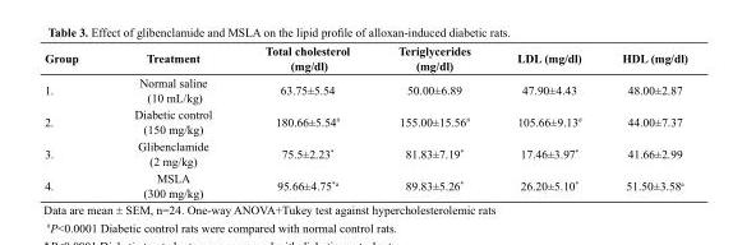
<table><thead><tr><td>Group</td><td>Treatment</td><td>Total cholesterol (mg/dl)</td><td>Teriglycerides (mg/dl)</td><td>LDL (mg/dl)</td><td>HDL (mg/dl)</td></tr></thead><tbody><tr><td>1.</td><td>Normal saline (10 mL/kg)</td><td>63.75±5.54</td><td>50.00±6.89</td><td>47.90±4.43</td><td>48.00±2.87</td></tr><tr><td>2.</td><td>Diabetic control (150 mg/kg)</td><td>180.66±5.54#</td><td>155.00±15.56#</td><td>105.66±9.13#</td><td>44.00±7.37</td></tr><tr><td>3.</td><td>Glibenclamide (2 mg/kg)</td><td>75.5±2.23*</td><td>81.83±7.19*</td><td>17.46±3.97*</td><td>41.66±2.99</td></tr><tr><td>4.</td><td>MSLA (300 mg/kg)</td><td>95.66±4.75*<sup>a</sup></td><td>89.83±5.26*</td><td>26.20±5.10*</td><td>51.50±3.58<sup>a</sup></td></tr></tbody></table>